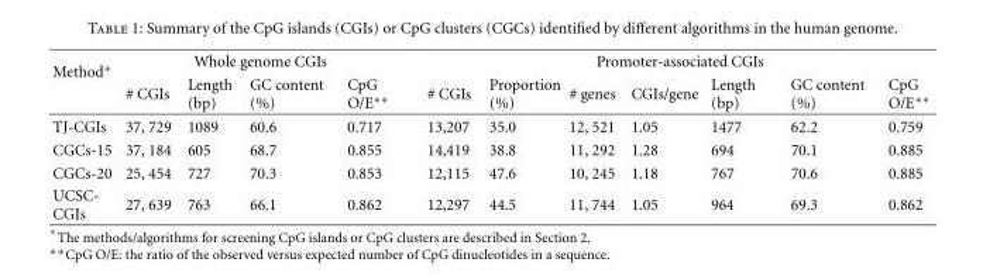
<table><thead><tr><td rowspan="2">Method∗</td><td colspan="4">Whole genome CGIs</td><td colspan="7">Promoter-associated CGIs</td></tr><tr><td># CGIs</td><td>Length (bp)</td><td>GC content (%)</td><td>CpG O/E∗∗</td><td># CGIs</td><td>Proportion (%)</td><td># genes</td><td>CGIs/gene</td><td>Length (bp)</td><td>GC content (%)</td><td>CpG O/E∗∗</td></tr></thead><tbody><tr><td>TJ-CGIs</td><td>37, 729</td><td>1089</td><td>60.6</td><td>0.717</td><td>13,207</td><td>35.0</td><td>12, 521</td><td>1.05</td><td>1477</td><td>62.2</td><td>0.759</td></tr><tr><td>CGCs-15</td><td>37, 184</td><td>605</td><td>68.7</td><td>0.855</td><td>14,419</td><td>38.8</td><td>11, 292</td><td>1.28</td><td>694</td><td>70.1</td><td>0.885</td></tr><tr><td>CGCs-20</td><td>25, 454</td><td>727</td><td>70.3</td><td>0.853</td><td>12,115</td><td>47.6</td><td>10, 245</td><td>1.18</td><td>767</td><td>70.6</td><td>0.885</td></tr><tr><td>UCSC- CGIs</td><td>27, 639</td><td>763</td><td>66.1</td><td>0.862</td><td>12,297</td><td>44.5</td><td>11, 744</td><td>1.05</td><td>964</td><td>69.3</td><td>0.862</td></tr></tbody></table>